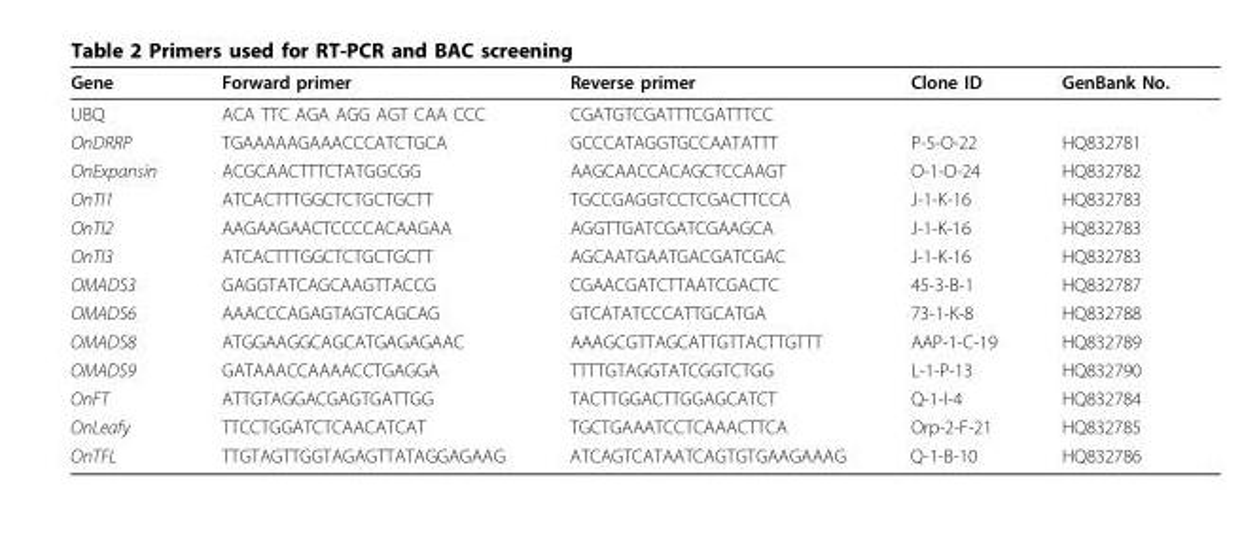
<table><thead><tr><td>Gene</td><td>Forward primer</td><td>Reverse primer</td><td>Clone ID</td><td>GenBank No.</td></tr></thead><tbody><tr><td>UBQ</td><td>ACA TTC AGA AGG AGT CAA CCC</td><td>CGATGTCGATTTCGATTTCC</td><td></td><td></td></tr><tr><td>OnDRRP</td><td>TGAAAAAGAAACCCATCTGCA</td><td>GCCCATAGGTGCCAATATTT</td><td>P-5-O-22</td><td>HQ832781</td></tr><tr><td>OnExpansin</td><td>ACGCAACTTTCTATGGCGG</td><td>AAGCAACCACAGCTCCAAGT</td><td>O-1-O-24</td><td>HQ832782</td></tr><tr><td>OnTI1</td><td>ATCACTTTGGCTCTGCTGCTT</td><td>TGCCGAGGTCCTCGACTTCCA</td><td>J-1-K-16</td><td>HQ832783</td></tr><tr><td>OnTI2</td><td>AAGAAGAACTCCCCACAAGAA</td><td>AGGTTGATCGATCGAAGCA</td><td>J-1-K-16</td><td>HQ832783</td></tr><tr><td>OnTI3</td><td>ATCACTTTGGCTCTGCTGCTT</td><td>AGCAATGAATGACGATCGAC</td><td>J-1-K-16</td><td>HQ832783</td></tr><tr><td>OMADS3</td><td>GAGGTATCAGCAAGTTACCG</td><td>CGAACGATCTTAATCGACTC</td><td>45-3-B-1</td><td>HQ832787</td></tr><tr><td>OMADS6</td><td>AAACCCAGAGTAGTCAGCAG</td><td>GTCATATCCCATTGCATGA</td><td>73-1-K-8</td><td>HQ832788</td></tr><tr><td>OMADS8</td><td>ATGGAAGGCAGCATGAGAGAAC</td><td>AAAGCGTTAGCATTGTTACTTGTTT</td><td>AAP-1-C-19</td><td>HQ832789</td></tr><tr><td>OMADS9</td><td>GATAAACCAAAACCTGAGGA</td><td>TTTTGTAGGTATCGGTCTGG</td><td>L-1-P-13</td><td>HQ832790</td></tr><tr><td>OnFT</td><td>ATTGTAGGACGAGTGATTGG</td><td>TACTTGGACTTGGAGCATCT</td><td>Q-1-I-4</td><td>HQ832784</td></tr><tr><td>OnLeafy</td><td>TTCCTGGATCTCAACATCAT</td><td>TGCTGAAATCCTCAAACTTCA</td><td>Orp-2-F-21</td><td>HQ832785</td></tr><tr><td>OnTFL</td><td>TTGTAGTTGGTAGAGTTATAGGAGAAG</td><td>ATCAGTCATAATCAGTGTGAAGAAAG</td><td>Q-1-B-10</td><td>HQ832786</td></tr></tbody></table>